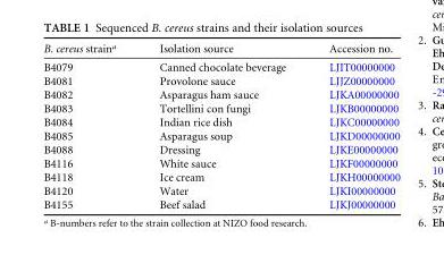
<table><thead><tr><td>B. cereus strain<sup>a</sup></td><td>Isolation source</td><td>Accession no.</td></tr></thead><tbody><tr><td>B4079</td><td>Canned chocolate beverage</td><td>LJIT00000000</td></tr><tr><td>B4081</td><td>Provolone sauce</td><td>LJJZ00000000</td></tr><tr><td>B4082</td><td>Asparagus ham sauce</td><td>LJKA00000000</td></tr><tr><td>B4083</td><td>Tortellini con fungi</td><td>LJKB00000000</td></tr><tr><td>B4084</td><td>Indian rice dish</td><td>LJKC00000000</td></tr><tr><td>B4085</td><td>Asparagus soup</td><td>LJKD00000000</td></tr><tr><td>B4088</td><td>Dressing</td><td>LJKE00000000</td></tr><tr><td>B4116</td><td>White sauce</td><td>LJKF00000000</td></tr><tr><td>B4118</td><td>Ice cream</td><td>LJKH00000000</td></tr><tr><td>B4120</td><td>Water</td><td>LJKI00000000</td></tr><tr><td>B4155</td><td>Beef salad</td><td>LJKJ00000000</td></tr></tbody></table>